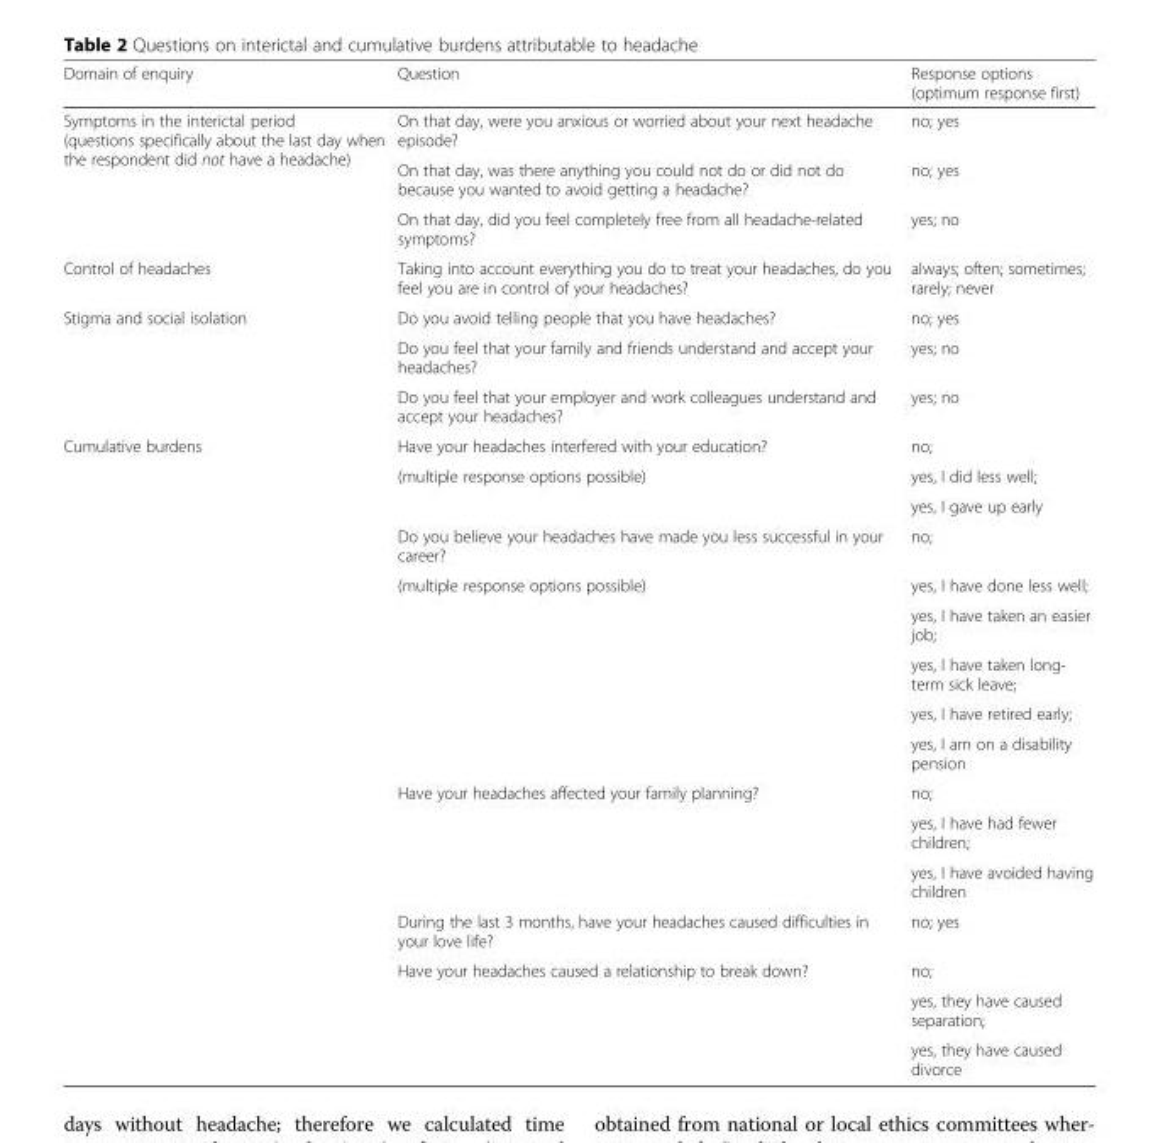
<table><thead><tr><td>Domain of enquiry</td><td>Question</td><td>Response options (optimum response first)</td></tr></thead><tbody><tr><td rowspan="3">Symptoms in the interictal period (questions specifically about the last day when the respondent did not have a headache)</td><td>On that day, were you anxious or worried about your next headache episode?</td><td>no; yes</td></tr><tr><td>On that day, was there anything you could not do or did not do because you wanted to avoid getting a headache?</td><td>no; yes</td></tr><tr><td>On that day, did you feel completely free from all headache-related symptoms?</td><td>yes; no</td></tr><tr><td>Control of headaches</td><td>Taking into account everything you do to treat your headaches, do you feel you are in control of your headaches?</td><td>always; often; sometimes; rarely; never</td></tr><tr><td rowspan="3">Stigma and social isolation</td><td>Do you avoid telling people that you have headaches?</td><td>no; yes</td></tr><tr><td>Do you feel that your family and friends understand and accept your headaches?</td><td>yes; no</td></tr><tr><td>Do you feel that your employer and work colleagues understand and accept your headaches?</td><td>yes; no</td></tr><tr><td rowspan="16">Cumulative burdens</td><td>Have your headaches interfered with your education?</td><td>no;</td></tr><tr><td rowspan="2">(multiple response options possible)</td><td>yes, I did less well;</td></tr><tr><td>yes, I gave up early</td></tr><tr><td>Do you believe your headaches have made you less successful in your career?</td><td>no;</td></tr><tr><td rowspan="5">(multiple response options possible)</td><td>yes, I have done less well;</td></tr><tr><td>yes, I have taken an easier job;</td></tr><tr><td>yes, I have taken long- term sick leave;</td></tr><tr><td>yes, I have retired early;</td></tr><tr><td>yes, I am on a disability pension</td></tr><tr><td rowspan="3">Have your headaches affected your family planning?</td><td>no;</td></tr><tr><td>yes, I have had fewer children;</td></tr><tr><td>yes, I have avoided having children</td></tr><tr><td>During the last 3 months, have your headaches caused difficulties in your love life?</td><td>no; yes</td></tr><tr><td rowspan="3">Have your headaches caused a relationship to break down?</td><td>no;</td></tr><tr><td>yes, they have caused separation;</td></tr><tr><td>yes, they have caused divorce</td></tr></tbody></table>